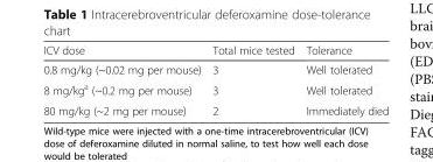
<table><thead><tr><td>ICV dose</td><td>Total mice tested</td><td>Tolerance</td></tr></thead><tbody><tr><td>0.8 mg/kg (~0.02 mg per mouse)</td><td>3</td><td>Well tolerated</td></tr><tr><td>8 mg/kg<sup>a</sup> (~0.2 mg per mouse)</td><td>3</td><td>Well tolerated</td></tr><tr><td>80 mg/kg (~2 mg per mouse)</td><td>2</td><td>Immediately died</td></tr></tbody></table>